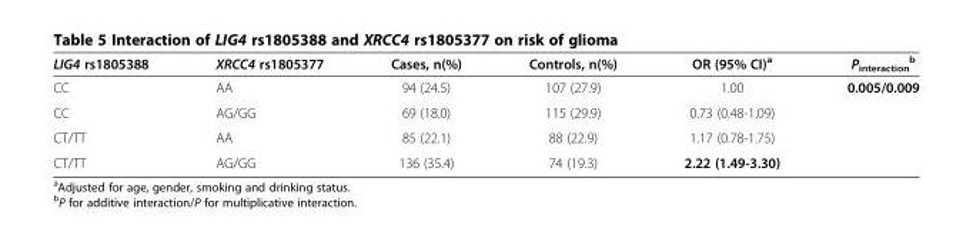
<table><thead><tr><td>LIG4 rs1805388</td><td>XRCC4 rs1805377</td><td>Cases, n(%)</td><td>Controls, n(%)</td><td>OR (95% CI)<sup>a</sup></td><td>P<sub>interaction</sub> <sup>b</sup></td></tr></thead><tbody><tr><td>CC</td><td>AA</td><td>94 (24.5)</td><td>107 (27.9)</td><td>1.00</td><td>0.005/0.009</td></tr><tr><td>CC</td><td>AG/GG</td><td>69 (18.0)</td><td>115 (29.9)</td><td>0.73 (0.48-1.09)</td><td></td></tr><tr><td>CT/TT</td><td>AA</td><td>85 (22.1)</td><td>88 (22.9)</td><td>1.17 (0.78-1.75)</td><td></td></tr><tr><td>CT/TT</td><td>AG/GG</td><td>136 (35.4)</td><td>74 (19.3)</td><td>2.22 (1.49-3.30)</td><td></td></tr></tbody></table>